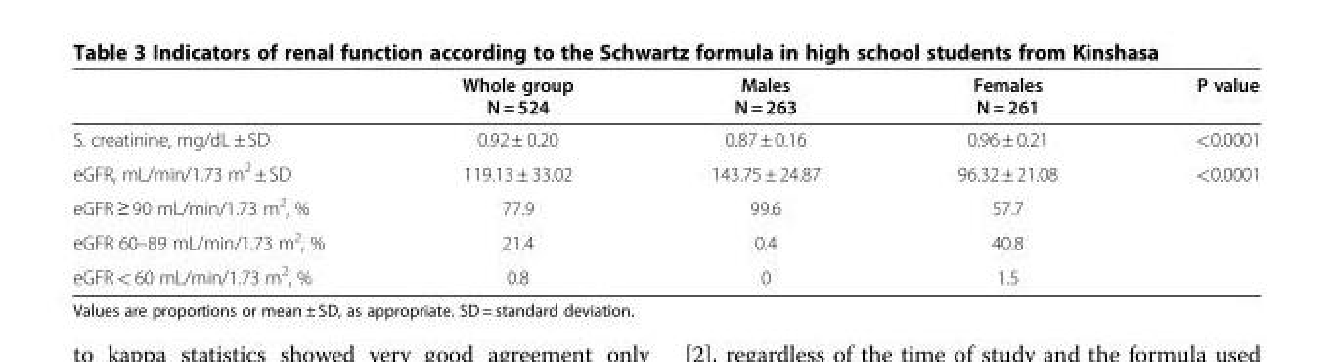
<table><thead><tr><td></td><td>Whole group N = 524</td><td>Males N = 263</td><td>Females N = 261</td><td>P value</td></tr></thead><tbody><tr><td>S. creatinine, mg/dL ± SD</td><td>0.92 ± 0.20</td><td>0.87 ± 0.16</td><td>0.96 ± 0.21</td><td>&lt;0.0001</td></tr><tr><td>eGFR, mL/min/1.73 m<sup>2</sup> ± SD</td><td>119.13 ± 33.02</td><td>143.75 ± 24.87</td><td>96.32 ± 21.08</td><td>&lt;0.0001</td></tr><tr><td>eGFR ≥ 90 mL/min/1.73 m<sup>2</sup>, %</td><td>77.9</td><td>99.6</td><td>57.7</td><td></td></tr><tr><td>eGFR 60–89 mL/min/1.73 m<sup>2</sup>, %</td><td>21.4</td><td>0.4</td><td>40.8</td><td></td></tr><tr><td>eGFR &lt; 60 mL/min/1.73 m<sup>2</sup>, %</td><td>0.8</td><td>0</td><td>1.5</td><td></td></tr></tbody></table>